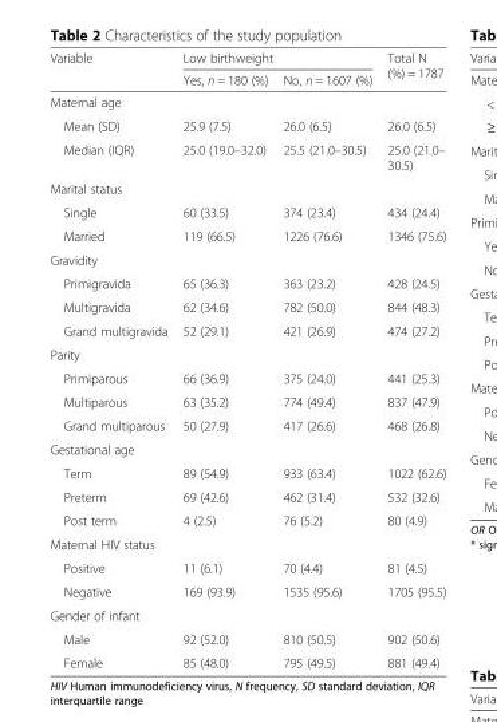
<table><thead><tr><td rowspan="2">Variable</td><td colspan="2">Low birthweight</td><td rowspan="2">Total N (%) = 1787</td></tr><tr><td>Yes, n = 180 (%)</td><td>No, n = 1607 (%)</td></tr></thead><tbody><tr><td colspan="4">Maternal age</td></tr><tr><td>Mean (SD)</td><td>25.9 (7.5)</td><td>26.0 (6.5)</td><td>26.0 (6.5)</td></tr><tr><td>Median (IQR)</td><td>25.0 (19.0–32.0)</td><td>25.5 (21.0–30.5)</td><td>25.0 (21.0– 30.5)</td></tr><tr><td colspan="4">Marital status</td></tr><tr><td>Single</td><td>60 (33.5)</td><td>374 (23.4)</td><td>434 (24.4)</td></tr><tr><td>Married</td><td>119 (66.5)</td><td>1226 (76.6)</td><td>1346 (75.6)</td></tr><tr><td colspan="4">Gravidity</td></tr><tr><td>Primigravida</td><td>65 (36.3)</td><td>363 (23.2)</td><td>428 (24.5)</td></tr><tr><td>Multigravida</td><td>62 (34.6)</td><td>782 (50.0)</td><td>844 (48.3)</td></tr><tr><td>Grand multigravida</td><td>52 (29.1)</td><td>421 (26.9)</td><td>474 (27.2)</td></tr><tr><td colspan="4">Parity</td></tr><tr><td>Primiparous</td><td>66 (36.9)</td><td>375 (24.0)</td><td>441 (25.3)</td></tr><tr><td>Multiparous</td><td>63 (35.2)</td><td>774 (49.4)</td><td>837 (47.9)</td></tr><tr><td>Grand multiparous</td><td>50 (27.9)</td><td>417 (26.6)</td><td>468 (26.8)</td></tr><tr><td colspan="4">Gestational age</td></tr><tr><td>Term</td><td>89 (54.9)</td><td>933 (63.4)</td><td>1022 (62.6)</td></tr><tr><td>Preterm</td><td>69 (42.6)</td><td>462 (31.4)</td><td>532 (32.6)</td></tr><tr><td>Post term</td><td>4 (2.5)</td><td>76 (5.2)</td><td>80 (4.9)</td></tr><tr><td colspan="4">Maternal HIV status</td></tr><tr><td>Positive</td><td>11 (6.1)</td><td>70 (4.4)</td><td>81 (4.5)</td></tr><tr><td>Negative</td><td>169 (93.9)</td><td>1535 (95.6)</td><td>1705 (95.5)</td></tr><tr><td colspan="4">Gender of infant</td></tr><tr><td>Male</td><td>92 (52.0)</td><td>810 (50.5)</td><td>902 (50.6)</td></tr><tr><td>Female</td><td>85 (48.0)</td><td>795 (49.5)</td><td>881 (49.4)</td></tr></tbody></table>